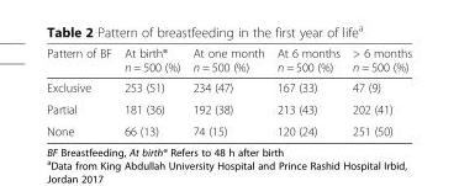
<table><thead><tr><td>Pattern of BF</td><td>At birth® n = 500 (%)</td><td>At one month n = 500 (%)</td><td>At 6 months n = 500 (%)</td><td>&gt; 6 months n = 500 (%)</td></tr></thead><tbody><tr><td>Exclusive</td><td>253 (51)</td><td>234 (47)</td><td>167 (33)</td><td>47 (9)</td></tr><tr><td>Partial</td><td>181 (36)</td><td>192 (38)</td><td>213 (43)</td><td>202 (41)</td></tr><tr><td>None</td><td>66 (13)</td><td>74 (15)</td><td>120 (24)</td><td>251 (50)</td></tr></tbody></table>